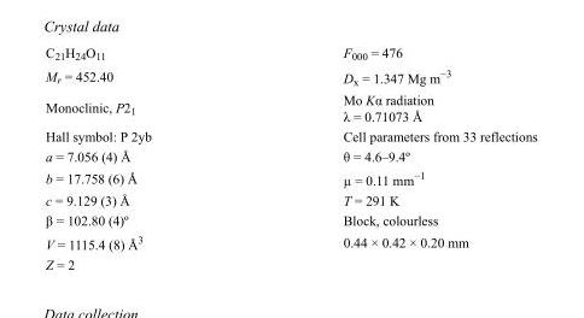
<table><tbody><tr><td>C<sub>21</sub>H<sub>24</sub>O<sub>11</sub></td><td>F000 = 476</td></tr><tr><td>M<sub>r</sub> = 452.40</td><td>D<sub>x</sub> = 1.347 Mg m<sup>−3</sup></td></tr><tr><td>Monoclinic, P2<sub>1</sub></td><td>Mo Kα radiation λ = 0.71073 Å</td></tr><tr><td>Hall symbol: P 2yb</td><td>Cell parameters from 33 reflections</td></tr><tr><td>a = 7.056 (4) Å</td><td>θ = 4.6–9.4º</td></tr><tr><td>b = 17.758 (6) Å</td><td>µ = 0.11 mm<sup>−1</sup></td></tr><tr><td>c = 9.129 (3) Å</td><td>T = 291 K</td></tr><tr><td>β = 102.80 (4)º</td><td>Block, colourless</td></tr><tr><td>V = 1115.4 (8) Å<sup>3</sup></td><td>0.44 × 0.42 × 0.20 mm</td></tr><tr><td>Z = 2</td><td></td></tr></tbody></table>